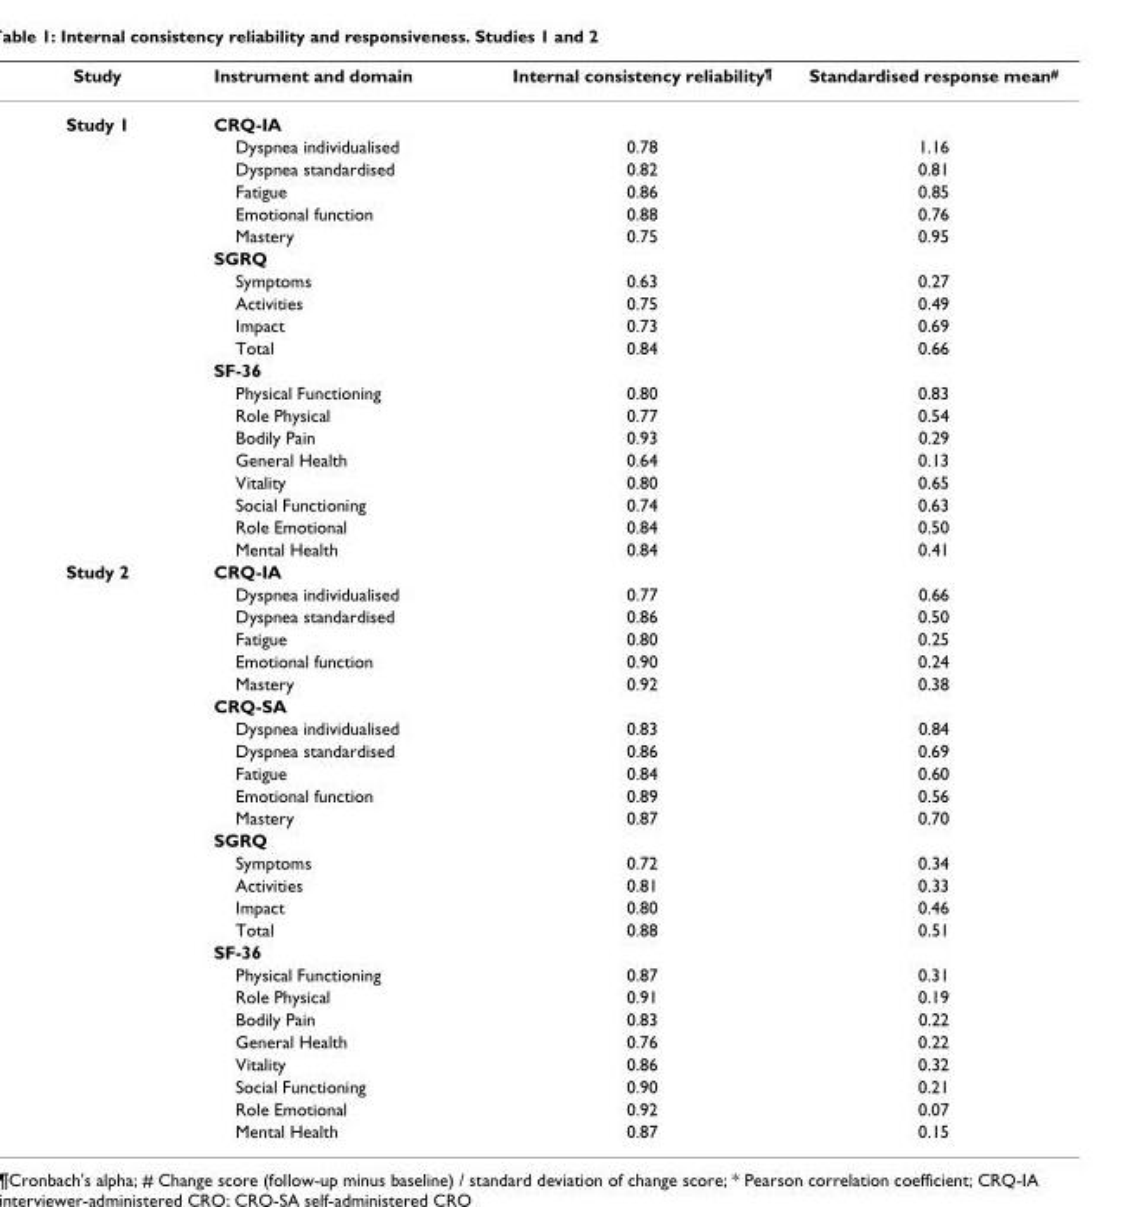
<table><thead><tr><td>Study</td><td>Instrument and domain</td><td>Internal consistency reliability<sup>¶</sup></td><td>Standardised response mean<sup>#</sup></td></tr></thead><tbody><tr><td rowspan="20">Study 1</td><td>CRQ-IA</td><td></td><td></td></tr><tr><td>Dyspnea individualised</td><td>0.78</td><td>1.16</td></tr><tr><td>Dyspnea standardised</td><td>0.82</td><td>0.81</td></tr><tr><td>Fatigue</td><td>0.86</td><td>0.85</td></tr><tr><td>Emotional function</td><td>0.88</td><td>0.76</td></tr><tr><td>Mastery</td><td>0.75</td><td>0.95</td></tr><tr><td>SGRQ</td><td></td><td></td></tr><tr><td>Symptoms</td><td>0.63</td><td>0.27</td></tr><tr><td>Activities</td><td>0.75</td><td>0.49</td></tr><tr><td>Impact</td><td>0.73</td><td>0.69</td></tr><tr><td>Total</td><td>0.84</td><td>0.66</td></tr><tr><td>SF-36</td><td></td><td></td></tr><tr><td>Physical Functioning</td><td>0.80</td><td>0.83</td></tr><tr><td>Role Physical</td><td>0.77</td><td>0.54</td></tr><tr><td>Bodily Pain</td><td>0.93</td><td>0.29</td></tr><tr><td>General Health</td><td>0.64</td><td>0.13</td></tr><tr><td>Vitality</td><td>0.80</td><td>0.65</td></tr><tr><td>Social Functioning</td><td>0.74</td><td>0.63</td></tr><tr><td>Role Emotional</td><td>0.84</td><td>0.50</td></tr><tr><td>Mental Health</td><td>0.84</td><td>0.41</td></tr><tr><td rowspan="26">Study 2</td><td>CRQ-IA</td><td></td><td></td></tr><tr><td>Dyspnea individualised</td><td>0.77</td><td>0.66</td></tr><tr><td>Dyspnea standardised</td><td>0.86</td><td>0.50</td></tr><tr><td>Fatigue</td><td>0.80</td><td>0.25</td></tr><tr><td>Emotional function</td><td>0.90</td><td>0.24</td></tr><tr><td>Mastery</td><td>0.92</td><td>0.38</td></tr><tr><td>CRQ-SA</td><td></td><td></td></tr><tr><td>Dyspnea individualised</td><td>0.83</td><td>0.84</td></tr><tr><td>Dyspnea standardised</td><td>0.86</td><td>0.69</td></tr><tr><td>Fatigue</td><td>0.84</td><td>0.60</td></tr><tr><td>Emotional function</td><td>0.89</td><td>0.56</td></tr><tr><td>Mastery</td><td>0.87</td><td>0.70</td></tr><tr><td>SGRQ</td><td></td><td></td></tr><tr><td>Symptoms</td><td>0.72</td><td>0.34</td></tr><tr><td>Activities</td><td>0.81</td><td>0.33</td></tr><tr><td>Impact</td><td>0.80</td><td>0.46</td></tr><tr><td>Total</td><td>0.88</td><td>0.51</td></tr><tr><td>SF-36</td><td></td><td></td></tr><tr><td>Physical Functioning</td><td>0.87</td><td>0.31</td></tr><tr><td>Role Physical</td><td>0.91</td><td>0.19</td></tr><tr><td>Bodily Pain</td><td>0.83</td><td>0.22</td></tr><tr><td>General Health</td><td>0.76</td><td>0.22</td></tr><tr><td>Vitality</td><td>0.86</td><td>0.32</td></tr><tr><td>Social Functioning</td><td>0.90</td><td>0.21</td></tr><tr><td>Role Emotional</td><td>0.92</td><td>0.07</td></tr><tr><td>Mental Health</td><td>0.87</td><td>0.15</td></tr></tbody></table>